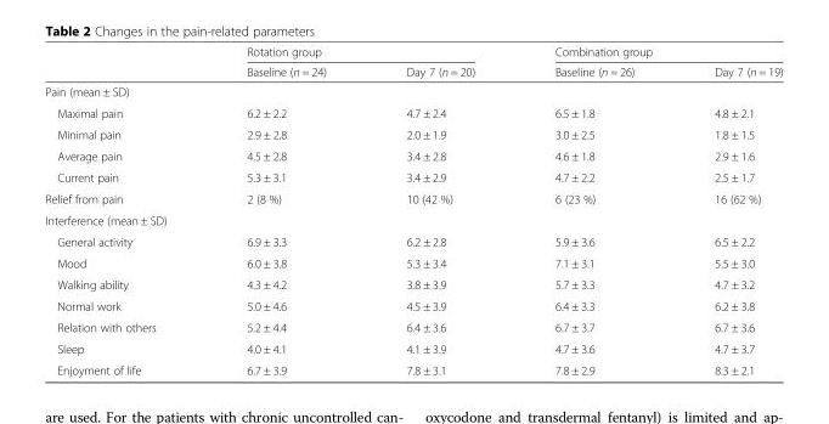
<table><thead><tr><td rowspan="2"></td><td colspan="2">Rotation group</td><td colspan="2">Combination group</td></tr><tr><td>Baseline (n = 24)</td><td>Day 7 (n = 20)</td><td>Baseline (n = 26)</td><td>Day 7 (n = 19)</td></tr></thead><tbody><tr><td colspan="5">Pain (mean ± SD)</td></tr><tr><td>Maximal pain</td><td>6.2 ± 2.2</td><td>4.7 ± 2.4</td><td>6.5 ± 1.8</td><td>4.8 ± 2.1</td></tr><tr><td>Minimal pain</td><td>2.9 ± 2.8</td><td>2.0 ± 1.9</td><td>3.0 ± 2.5</td><td>1.8 ± 1.5</td></tr><tr><td>Average pain</td><td>4.5 ± 2.8</td><td>3.4 ± 2.8</td><td>4.6 ± 1.8</td><td>2.9 ± 1.6</td></tr><tr><td>Current pain</td><td>5.3 ± 3.1</td><td>3.4 ± 2.9</td><td>4.7 ± 2.2</td><td>2.5 ± 1.7</td></tr><tr><td>Relief from pain</td><td>2 (8 %)</td><td>10 (42 %)</td><td>6 (23 %)</td><td>16 (62 %)</td></tr><tr><td colspan="5">Interference (mean ± SD)</td></tr><tr><td>General activity</td><td>6.9 ± 3.3</td><td>6.2 ± 2.8</td><td>5.9 ± 3.6</td><td>6.5 ± 2.2</td></tr><tr><td>Mood</td><td>6.0 ± 3.8</td><td>5.3 ± 3.4</td><td>7.1 ± 3.1</td><td>5.5 ± 3.0</td></tr><tr><td>Walking ability</td><td>4.3 ± 4.2</td><td>3.8 ± 3.9</td><td>5.7 ± 3.3</td><td>4.7 ± 3.2</td></tr><tr><td>Normal work</td><td>5.0 ± 4.6</td><td>4.5 ± 3.9</td><td>6.4 ± 3.3</td><td>6.2 ± 3.8</td></tr><tr><td>Relation with others</td><td>5.2 ± 4.4</td><td>6.4 ± 3.6</td><td>6.7 ± 3.7</td><td>6.7 ± 3.6</td></tr><tr><td>Sleep</td><td>4.0 ± 4.1</td><td>4.1 ± 3.9</td><td>4.7 ± 3.6</td><td>4.7 ± 3.7</td></tr><tr><td>Enjoyment of life</td><td>6.7 ± 3.9</td><td>7.8 ± 3.1</td><td>7.8 ± 2.9</td><td>8.3 ± 2.1</td></tr></tbody></table>